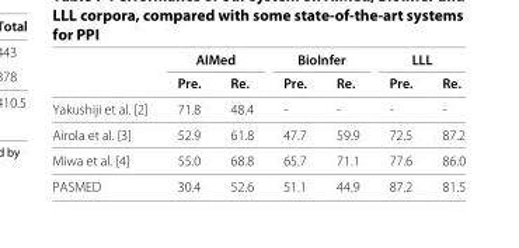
<table><thead><tr><td rowspan="2"></td><td colspan="2">AIMed</td><td colspan="2">BioInfer</td><td colspan="2">LLL</td></tr><tr><td>Pre.</td><td>Re.</td><td>Pre.</td><td>Re.</td><td>Pre.</td><td>Re.</td></tr></thead><tbody><tr><td>Yakushiji et al. [2]</td><td>71.8</td><td>48.4</td><td>-</td><td>-</td><td>-</td><td>-</td></tr><tr><td>Airola et al. [3]</td><td>52.9</td><td>61.8</td><td>47.7</td><td>59.9</td><td>72.5</td><td>87.2</td></tr><tr><td>Miwa et al. [4]</td><td>55.0</td><td>68.8</td><td>65.7</td><td>71.1</td><td>77.6</td><td>86.0</td></tr><tr><td>PASMED</td><td>30.4</td><td>52.6</td><td>51.1</td><td>44.9</td><td>87.2</td><td>81.5</td></tr></tbody></table>